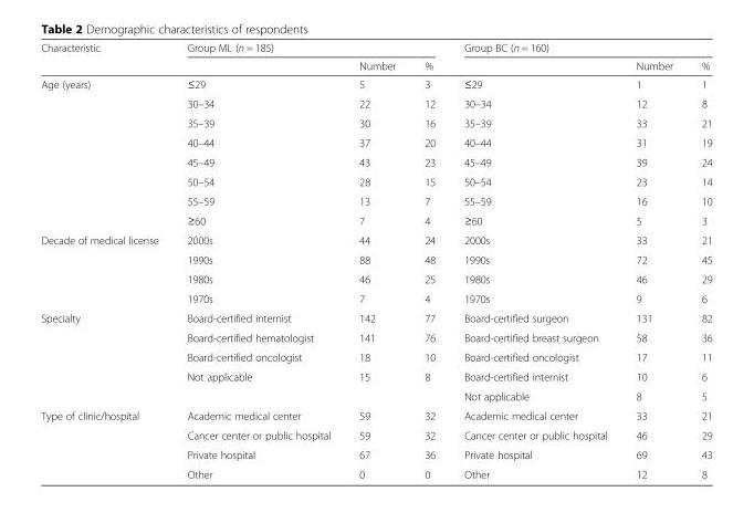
<table><thead><tr><td rowspan="2">Characteristic</td><td colspan="3">Group ML (n = 185)</td><td colspan="3">Group BC (n = 160)</td></tr><tr><td></td><td>Number</td><td>%</td><td></td><td>Number</td><td>%</td></tr></thead><tbody><tr><td rowspan="8">Age (years)</td><td>≤29</td><td>5</td><td>3</td><td>≤29</td><td>1</td><td>1</td></tr><tr><td>30–34</td><td>22</td><td>12</td><td>30–34</td><td>12</td><td>8</td></tr><tr><td>35–39</td><td>30</td><td>16</td><td>35–39</td><td>33</td><td>21</td></tr><tr><td>40–44</td><td>37</td><td>20</td><td>40–44</td><td>31</td><td>19</td></tr><tr><td>45–49</td><td>43</td><td>23</td><td>45–49</td><td>39</td><td>24</td></tr><tr><td>50–54</td><td>28</td><td>15</td><td>50–54</td><td>23</td><td>14</td></tr><tr><td>55–59</td><td>13</td><td>7</td><td>55–59</td><td>16</td><td>10</td></tr><tr><td>≥60</td><td>7</td><td>4</td><td>≥60</td><td>5</td><td>3</td></tr><tr><td rowspan="4">Decade of medical license</td><td>2000s</td><td>44</td><td>24</td><td>2000s</td><td>33</td><td>21</td></tr><tr><td>1990s</td><td>88</td><td>48</td><td>1990s</td><td>72</td><td>45</td></tr><tr><td>1980s</td><td>46</td><td>25</td><td>1980s</td><td>46</td><td>29</td></tr><tr><td>1970s</td><td>7</td><td>4</td><td>1970s</td><td>9</td><td>6</td></tr><tr><td rowspan="5">Specialty</td><td>Board-certified internist</td><td>142</td><td>77</td><td>Board-certified surgeon</td><td>131</td><td>82</td></tr><tr><td>Board-certified hematologist</td><td>141</td><td>76</td><td>Board-certified breast surgeon</td><td>58</td><td>36</td></tr><tr><td>Board-certified oncologist</td><td>18</td><td>10</td><td>Board-certified oncologist</td><td>17</td><td>11</td></tr><tr><td>Not applicable</td><td>15</td><td>8</td><td>Board-certified internist</td><td>10</td><td>6</td></tr><tr><td></td><td></td><td></td><td>Not applicable</td><td>8</td><td>5</td></tr><tr><td rowspan="4">Type of clinic/hospital</td><td>Academic medical center</td><td>59</td><td>32</td><td>Academic medical center</td><td>33</td><td>21</td></tr><tr><td>Cancer center or public hospital</td><td>59</td><td>32</td><td>Cancer center or public hospital</td><td>46</td><td>29</td></tr><tr><td>Private hospital</td><td>67</td><td>36</td><td>Private hospital</td><td>69</td><td>43</td></tr><tr><td>Other</td><td>0</td><td>0</td><td>Other</td><td>12</td><td>8</td></tr></tbody></table>